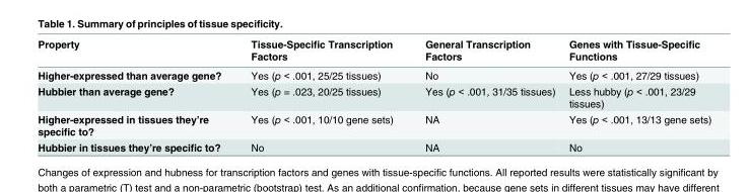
<table><thead><tr><td>Property</td><td>Tissue-Specific Transcription Factors</td><td>General Transcription Factors</td><td>Genes with Tissue-Specific Functions</td></tr></thead><tbody><tr><td>Higher-expressed than average gene?</td><td>Yes (p &lt; .001, 25/25 tissues)</td><td>No</td><td>Yes (p &lt; .001, 27/29 tissues)</td></tr><tr><td>Hubbier than average gene?</td><td>Yes (p = .023, 20/25 tissues)</td><td>Yes (p &lt; .001, 31/35 tissues)</td><td>Less hubby (p &lt; .001, 23/29 tissues)</td></tr><tr><td>Higher-expressed in tissues they’re specific to?</td><td>Yes (p &lt; .001, 10/10 gene sets)</td><td>NA</td><td>Yes (p &lt; .001, 13/13 gene sets)</td></tr><tr><td>Hubbier in tissues they’re specific to?</td><td>No</td><td>NA</td><td>No</td></tr></tbody></table>